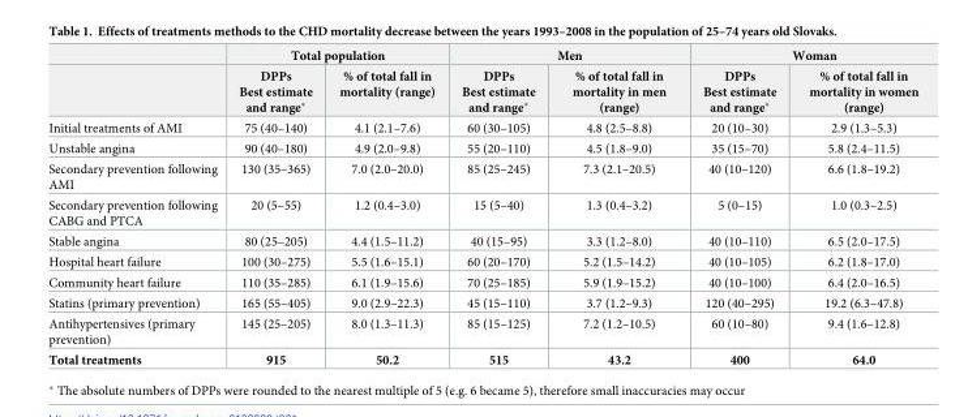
<table><thead><tr><td rowspan="2"></td><td colspan="2">Total population</td><td colspan="2">Men</td><td colspan="2">Woman</td></tr><tr><td>DPPs Best estimate and range*</td><td>% of total fall in mortality (range)</td><td>DPPs Best estimate and range*</td><td>% of total fall in mortality in men (range)</td><td>DPPs Best estimate and range*</td><td>% of total fall in mortality in women (range)</td></tr></thead><tbody><tr><td>Initial treatments of AMI</td><td>75 (40–140)</td><td>4.1 (2.1–7.6)</td><td>60 (30–105)</td><td>4.8 (2.5–8.8)</td><td>20 (10–30)</td><td>2.9 (1.3–5.3)</td></tr><tr><td>Unstable angina</td><td>90 (40–180)</td><td>4.9 (2.0–9.8)</td><td>55 (20–110)</td><td>4.5 (1.8–9.0)</td><td>35 (15–70)</td><td>5.8 (2.4–11.5)</td></tr><tr><td>Secondary prevention following AMI</td><td>130 (35–365)</td><td>7.0 (2.0–20.0)</td><td>85 (25–245)</td><td>7.3 (2.1–20.5)</td><td>40 (10–120)</td><td>6.6 (1.8–19.2)</td></tr><tr><td>Secondary prevention following CABG and PTCA</td><td>20 (5–55)</td><td>1.2 (0.4–3.0)</td><td>15 (5–40)</td><td>1.3 (0.4–3.2)</td><td>5 (0–15)</td><td>1.0 (0.3–2.5)</td></tr><tr><td>Stable angina</td><td>80 (25–205)</td><td>4.4 (1.5–11.2)</td><td>40 (15–95)</td><td>3.3 (1.2–8.0)</td><td>40 (10–110)</td><td>6.5 (2.0–17.5)</td></tr><tr><td>Hospital heart failure</td><td>100 (30–275)</td><td>5.5 (1.6–15.1)</td><td>60 (20–170)</td><td>5.2 (1.5–14.2)</td><td>40 (10–105)</td><td>6.2 (1.8–17.0)</td></tr><tr><td>Community heart failure</td><td>110 (35–285)</td><td>6.1 (1.9–15.6)</td><td>70 (25–185)</td><td>5.9 (1.9–15.2)</td><td>40 (10–100)</td><td>6.4 (2.0–16.5)</td></tr><tr><td>Statins (primary prevention)</td><td>165 (55–405)</td><td>9.0 (2.9–22.3)</td><td>45 (15–110)</td><td>3.7 (1.2–9.3)</td><td>120 (40–295)</td><td>19.2 (6.3–47.8)</td></tr><tr><td>Antihypertensives (primary prevention)</td><td>145 (25–205)</td><td>8.0 (1.3–11.3)</td><td>85 (15–125)</td><td>7.2 (1.2–10.5)</td><td>60 (10–80)</td><td>9.4 (1.6–12.8)</td></tr><tr><td>Total treatments</td><td>915</td><td>50.2</td><td>515</td><td>43.2</td><td>400</td><td>64.0</td></tr></tbody></table>